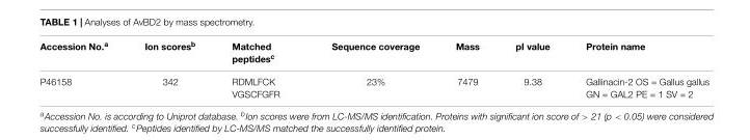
<table><thead><tr><td>Accession No.<sup>a</sup></td><td>Ion scores<sup>b</sup></td><td>Matched peptides<sup>c</sup></td><td>Sequence coverage</td><td>Mass</td><td>pI value</td><td>Protein name</td></tr></thead><tbody><tr><td>P46158</td><td>342</td><td>RDMLFCK VGSCFGFR</td><td>23%</td><td>7479</td><td>9.38</td><td>Gallinacin-2 OS = Gallus gallus GN = GAL2 PE = 1 SV = 2</td></tr></tbody></table>